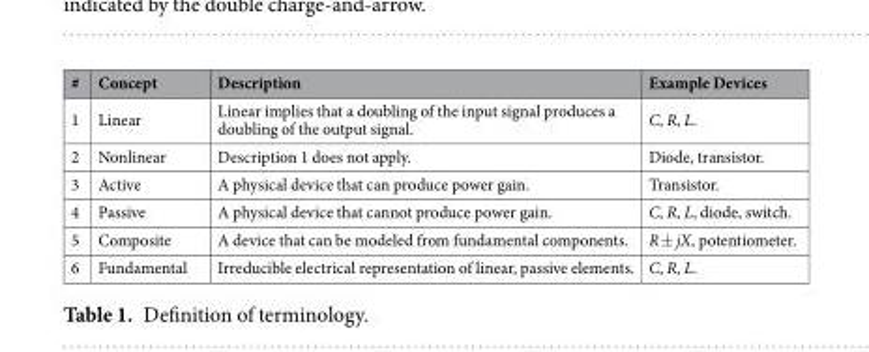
<table><thead><tr><td>#</td><td>Concept</td><td>Description</td><td>Example Devices</td></tr></thead><tbody><tr><td>1</td><td>Linear</td><td>Linear implies that a doubling of the input signal produces a doubling of the output signal.</td><td>C, R, L.</td></tr><tr><td>2</td><td>Nonlinear</td><td>Description 1 does not apply.</td><td>Diode, transistor.</td></tr><tr><td>3</td><td>Active</td><td>A physical device that can produce power gain.</td><td>Transistor.</td></tr><tr><td>4</td><td>Passive</td><td>A physical device that cannot produce power gain.</td><td>C, R, L, diode, switch.</td></tr><tr><td>5</td><td>Composite</td><td>A device that can be modeled from fundamental components.</td><td>R ± jX, potentiometer.</td></tr><tr><td>6</td><td>Fundamental</td><td>Irreducible electrical representation of linear, passive elements.</td><td>C, R, L.</td></tr></tbody></table>